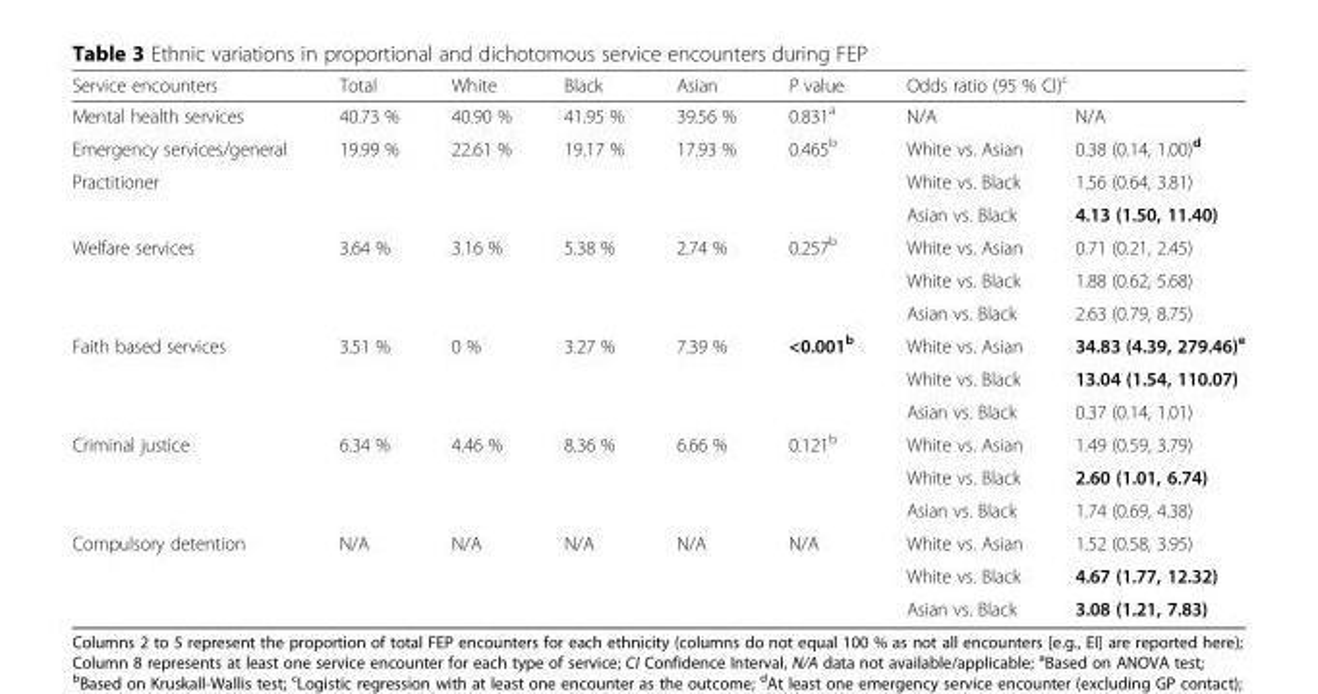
<table><thead><tr><td rowspan="2">Service encounters Mental health services</td><td rowspan="2">Total 40.73 %</td><td rowspan="2">White 40.90 %</td><td rowspan="2">Black 41.95 %</td><td rowspan="2">Asian 39.56 %</td><td rowspan="2">P value 0.831<sup>a</sup></td><td colspan="2">Odds ratio (95 % CI)<sup>c</sup></td></tr><tr><td>N/A</td><td>N/A</td></tr></thead><tbody><tr><td>Emergency services/general</td><td>19.99 %</td><td>22.61 %</td><td>19.17 %</td><td>17.93 %</td><td>0.465<sup>b</sup></td><td>White vs. Asian</td><td>0.38 (0.14, 1.00)<sup>d</sup></td></tr><tr><td rowspan="2">Practitioner</td><td></td><td></td><td></td><td></td><td></td><td>White vs. Black</td><td>1.56 (0.64, 3.81)</td></tr><tr><td></td><td></td><td></td><td></td><td></td><td>Asian vs. Black</td><td>4.13 (1.50, 11.40)</td></tr><tr><td rowspan="3">Welfare services</td><td>3.64 %</td><td>3.16 %</td><td>5.38 %</td><td>2.74 %</td><td>0.257<sup>b</sup></td><td>White vs. Asian</td><td>0.71 (0.21, 2.45)</td></tr><tr><td></td><td></td><td></td><td></td><td></td><td>White vs. Black</td><td>1.88 (0.62, 5.68)</td></tr><tr><td></td><td></td><td></td><td></td><td></td><td>Asian vs. Black</td><td>2.63 (0.79, 8.75)</td></tr><tr><td rowspan="3">Faith based services</td><td>3.51 %</td><td>0 %</td><td>3.27 %</td><td>7.39 %</td><td>&lt;0.001<sup>b</sup></td><td>White vs. Asian</td><td>34.83 (4.39, 279.46)<sup>e</sup></td></tr><tr><td></td><td></td><td></td><td></td><td></td><td>White vs. Black</td><td>13.04 (1.54, 110.07)</td></tr><tr><td></td><td></td><td></td><td></td><td></td><td>Asian vs. Black</td><td>0.37 (0.14, 1.01)</td></tr><tr><td rowspan="3">Criminal justice</td><td>6.34 %</td><td>4.46 %</td><td>8.36 %</td><td>6.66 %</td><td>0.121<sup>b</sup></td><td>White vs. Asian</td><td>1.49 (0.59, 3.79)</td></tr><tr><td></td><td></td><td></td><td></td><td></td><td>White vs. Black</td><td>2.60 (1.01, 6.74)</td></tr><tr><td></td><td></td><td></td><td></td><td></td><td>Asian vs. Black</td><td>1.74 (0.69, 4.38)</td></tr><tr><td rowspan="3">Compulsory detention</td><td>N/A</td><td>N/A</td><td>N/A</td><td>N/A</td><td>N/A</td><td>White vs. Asian</td><td>1.52 (0.58, 3.95)</td></tr><tr><td></td><td></td><td></td><td></td><td></td><td>White vs. Black</td><td>4.67 (1.77, 12.32)</td></tr><tr><td></td><td></td><td></td><td></td><td></td><td>Asian vs. Black</td><td>3.08 (1.21, 7.83)</td></tr></tbody></table>